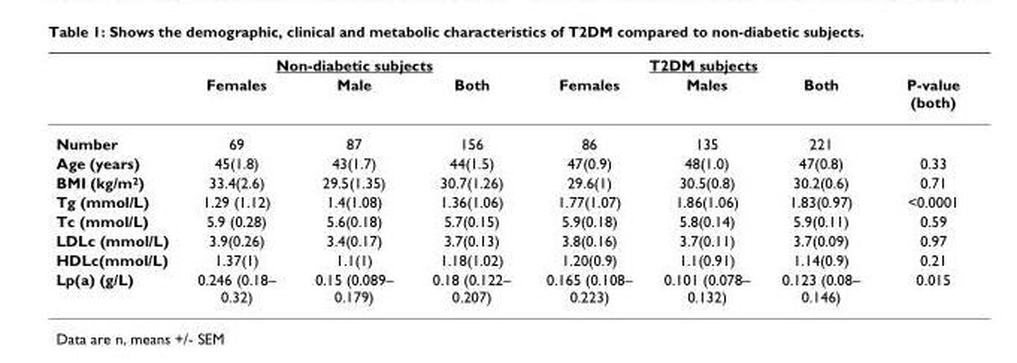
<table><thead><tr><td rowspan="2"></td><td colspan="3">Non-diabetic subjects</td><td colspan="3">T2DM subjects</td><td rowspan="2">P-value (both)</td></tr><tr><td>Females</td><td>Male</td><td>Both</td><td>Females</td><td>Males</td><td>Both</td></tr></thead><tbody><tr><td>Number</td><td>69</td><td>87</td><td>156</td><td>86</td><td>135</td><td>221</td><td></td></tr><tr><td>Age (years)</td><td>45(1.8)</td><td>43(1.7)</td><td>44(1.5)</td><td>47(0.9)</td><td>48(1.0)</td><td>47(0.8)</td><td>0.33</td></tr><tr><td>BMI (kg/m2)</td><td>33.4(2.6)</td><td>29.5(1.35)</td><td>30.7(1.26)</td><td>29.6(1)</td><td>30.5(0.8)</td><td>30.2(0.6)</td><td>0.71</td></tr><tr><td>Tg (mmol/L)</td><td>1.29 (1.12)</td><td>1.4(1.08)</td><td>1.36(1.06)</td><td>1.77(1.07)</td><td>1.86(1.06)</td><td>1.83(0.97)</td><td>&lt;0.0001</td></tr><tr><td>Tc (mmol/L)</td><td>5.9 (0.28)</td><td>5.6(0.18)</td><td>5.7(0.15)</td><td>5.9(0.18)</td><td>5.8(0.14)</td><td>5.9(0.11)</td><td>0.59</td></tr><tr><td>LDLc (mmol/L)</td><td>3.9(0.26)</td><td>3.4(0.17)</td><td>3.7(0.13)</td><td>3.8(0.16)</td><td>3.7(0.11)</td><td>3.7(0.09)</td><td>0.97</td></tr><tr><td>HDLc(mmol/L)</td><td>1.37(1)</td><td>1.1(1)</td><td>1.18(1.02)</td><td>1.20(0.9)</td><td>1.1(0.91)</td><td>1.14(0.9)</td><td>0.21</td></tr><tr><td>Lp(a) (g/L)</td><td>0.246 (0.18– 0.32)</td><td>0.15 (0.089– 0.179)</td><td>0.18 (0.122– 0.207)</td><td>0.165 (0.108– 0.223)</td><td>0.101 (0.078– 0.132)</td><td>0.123 (0.08– 0.146)</td><td>0.015</td></tr></tbody></table>